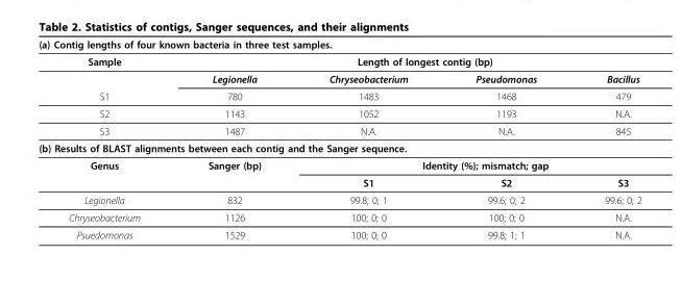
<table><thead><tr><td colspan="5">(a) Contig lengths of four known bacteria in three test samples.</td></tr><tr><td rowspan="2">Sample</td><td colspan="4">Length of longest contig (bp)</td></tr><tr><td>Legionella</td><td>Chryseobacterium</td><td>Pseudomonas</td><td>Bacillus</td></tr></thead><tbody><tr><td>S1</td><td>780</td><td>1483</td><td>1468</td><td>479</td></tr><tr><td>S2</td><td>1143</td><td>1052</td><td>1193</td><td>N.A.</td></tr><tr><td>S3</td><td>1487</td><td>N.A.</td><td>N.A.</td><td>845</td></tr><tr><td colspan="5">(b) Results of BLAST alignments between each contig and the Sanger sequence.</td></tr><tr><td rowspan="2">Genus</td><td>Sanger (bp)</td><td colspan="3">Identity (%); mismatch; gap</td></tr><tr><td></td><td>S1</td><td>S2</td><td>S3</td></tr><tr><td>Legionella</td><td>832</td><td>99.8; 0; 1</td><td>99.6; 0; 2</td><td>99.6; 0; 2</td></tr><tr><td>Chryseobacterium</td><td>1126</td><td>100; 0; 0</td><td>100; 0; 0</td><td>N.A.</td></tr><tr><td>Psuedomonas</td><td>1529</td><td>100; 0; 0</td><td>99.8; 1; 1</td><td>N.A.</td></tr></tbody></table>